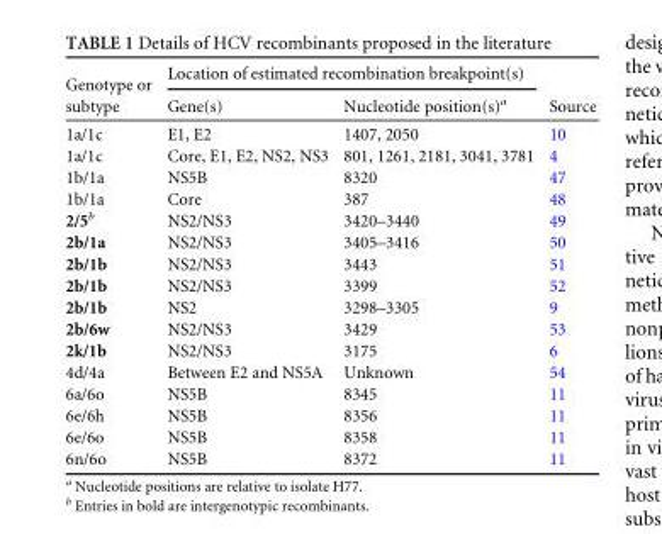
<table><thead><tr><td rowspan="2">Genotype or subtype</td><td colspan="2">Location of estimated recombination breakpoint(s)</td><td rowspan="2">Source</td></tr><tr><td>Gene(s)</td><td>Nucleotide position(s)<sup>a</sup></td></tr></thead><tbody><tr><td>1a/1c</td><td>E1, E2</td><td>1407, 2050</td><td>10</td></tr><tr><td>1a/1c</td><td>Core, E1, E2, NS2, NS3</td><td>801, 1261, 2181, 3041, 3781</td><td>4</td></tr><tr><td>1b/1a</td><td>NS5B</td><td>8320</td><td>47</td></tr><tr><td>1b/1a</td><td>Core</td><td>387</td><td>48</td></tr><tr><td>2/5<sup>b</sup></td><td>NS2/NS3</td><td>3420–3440</td><td>49</td></tr><tr><td>2b/1a</td><td>NS2/NS3</td><td>3405–3416</td><td>50</td></tr><tr><td>2b/1b</td><td>NS2/NS3</td><td>3443</td><td>51</td></tr><tr><td>2b/1b</td><td>NS2/NS3</td><td>3399</td><td>52</td></tr><tr><td>2b/1b</td><td>NS2</td><td>3298–3305</td><td>9</td></tr><tr><td>2b/6w</td><td>NS2/NS3</td><td>3429</td><td>53</td></tr><tr><td>2k/1b</td><td>NS2/NS3</td><td>3175</td><td>6</td></tr><tr><td>4d/4a</td><td>Between E2 and NS5A</td><td>Unknown</td><td>54</td></tr><tr><td>6a/6o</td><td>NS5B</td><td>8345</td><td>11</td></tr><tr><td>6e/6h</td><td>NS5B</td><td>8356</td><td>11</td></tr><tr><td>6e/6o</td><td>NS5B</td><td>8358</td><td>11</td></tr><tr><td>6n/6o</td><td>NS5B</td><td>8372</td><td>11</td></tr></tbody></table>